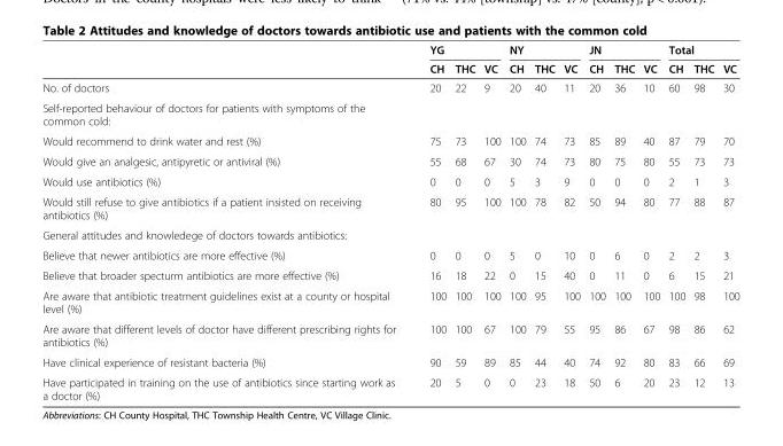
<table><thead><tr><td rowspan="2"></td><td colspan="3">YG</td><td colspan="3">NY</td><td colspan="3">JN</td><td colspan="3">Total</td></tr><tr><td>CH</td><td>THC</td><td>VC</td><td>CH</td><td>THC</td><td>VC</td><td>CH</td><td>THC</td><td>VC</td><td>CH</td><td>THC</td><td>VC</td></tr></thead><tbody><tr><td>No. of doctors</td><td>20</td><td>22</td><td>9</td><td>20</td><td>40</td><td>11</td><td>20</td><td>36</td><td>10</td><td>60</td><td>98</td><td>30</td></tr><tr><td colspan="13">Self-reported behaviour of doctors for patients with symptoms of the common cold:</td></tr><tr><td>Would recommend to drink water and rest (%)</td><td>75</td><td>73</td><td>100</td><td>100</td><td>74</td><td>73</td><td>85</td><td>89</td><td>40</td><td>87</td><td>79</td><td>70</td></tr><tr><td>Would give an analgesic, antipyretic or antiviral (%)</td><td>55</td><td>68</td><td>67</td><td>30</td><td>74</td><td>73</td><td>80</td><td>75</td><td>80</td><td>55</td><td>73</td><td>73</td></tr><tr><td>Would use antibiotics (%)</td><td>0</td><td>0</td><td>0</td><td>5</td><td>3</td><td>9</td><td>0</td><td>0</td><td>0</td><td>2</td><td>1</td><td>3</td></tr><tr><td>Would still refuse to give antibiotics if a patient insisted on receiving antibiotics (%)</td><td>80</td><td>95</td><td>100</td><td>100</td><td>78</td><td>82</td><td>50</td><td>94</td><td>80</td><td>77</td><td>88</td><td>87</td></tr><tr><td colspan="13">General attitudes and knowledege of doctors towards antibiotics:</td></tr><tr><td>Believe that newer antibiotics are more effective (%)</td><td>0</td><td>0</td><td>0</td><td>5</td><td>0</td><td>10</td><td>0</td><td>6</td><td>0</td><td>2</td><td>2</td><td>3</td></tr><tr><td>Believe that broader specturm antibiotics are more effective (%)</td><td>16</td><td>18</td><td>22</td><td>0</td><td>15</td><td>40</td><td>0</td><td>11</td><td>0</td><td>6</td><td>15</td><td>21</td></tr><tr><td>Are aware that antibiotic treatment guidelines exist at a county or hospital level (%)</td><td>100</td><td>100</td><td>100</td><td>100</td><td>95</td><td>100</td><td>100</td><td>100</td><td>100</td><td>100</td><td>98</td><td>100</td></tr><tr><td>Are aware that different levels of doctor have different prescribing rights for antibiotics (%)</td><td>100</td><td>100</td><td>67</td><td>100</td><td>79</td><td>55</td><td>95</td><td>86</td><td>67</td><td>98</td><td>86</td><td>62</td></tr><tr><td>Have clinical experience of resistant bacteria (%)</td><td>90</td><td>59</td><td>89</td><td>85</td><td>44</td><td>40</td><td>74</td><td>92</td><td>80</td><td>83</td><td>66</td><td>69</td></tr><tr><td>Have participated in training on the use of antibiotics since starting work as a doctor (%)</td><td>20</td><td>5</td><td>0</td><td>0</td><td>23</td><td>18</td><td>50</td><td>6</td><td>20</td><td>23</td><td>12</td><td>13</td></tr></tbody></table>